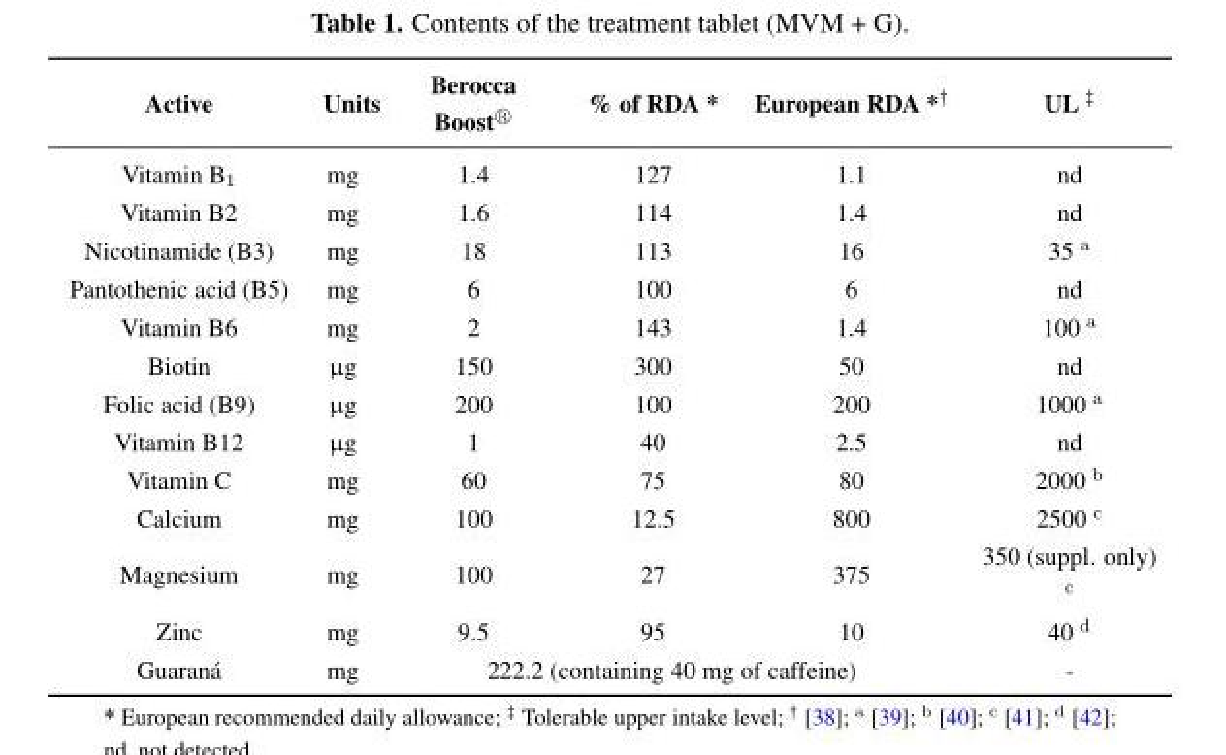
<table><thead><tr><td>Active</td><td>Units</td><td>Berocca Boost<sup>®</sup></td><td>% of RDA *</td><td>European RDA *<sup>†</sup></td><td>UL <sup>‡</sup></td></tr></thead><tbody><tr><td>Vitamin B<sub>1</sub></td><td>mg</td><td>1.4</td><td>127</td><td>1.1</td><td>nd</td></tr><tr><td>Vitamin B2</td><td>mg</td><td>1.6</td><td>114</td><td>1.4</td><td>nd</td></tr><tr><td>Nicotinamide (B3)</td><td>mg</td><td>18</td><td>113</td><td>16</td><td>35 <sup>a</sup></td></tr><tr><td>Pantothenic acid (B5)</td><td>mg</td><td>6</td><td>100</td><td>6</td><td>nd</td></tr><tr><td>Vitamin B6</td><td>mg</td><td>2</td><td>143</td><td>1.4</td><td>100 <sup>a</sup></td></tr><tr><td>Biotin</td><td>µg</td><td>150</td><td>300</td><td>50</td><td>nd</td></tr><tr><td>Folic acid (B9)</td><td>µg</td><td>200</td><td>100</td><td>200</td><td>1000 <sup>a</sup></td></tr><tr><td>Vitamin B12</td><td>µg</td><td>1</td><td>40</td><td>2.5</td><td>nd</td></tr><tr><td>Vitamin C</td><td>mg</td><td>60</td><td>75</td><td>80</td><td>2000 <sup>b</sup></td></tr><tr><td>Calcium</td><td>mg</td><td>100</td><td>12.5</td><td>800</td><td>2500 <sup>c</sup></td></tr><tr><td>Magnesium</td><td>mg</td><td>100</td><td>27</td><td>375</td><td>350 (suppl. only) <sup>c</sup></td></tr><tr><td>Zinc</td><td>mg</td><td>9.5</td><td>95</td><td>10</td><td>40 <sup>d</sup></td></tr><tr><td>Guaraná</td><td>mg</td><td colspan="3">222.2 (containing 40 mg of caffeine)</td><td>-</td></tr></tbody></table>